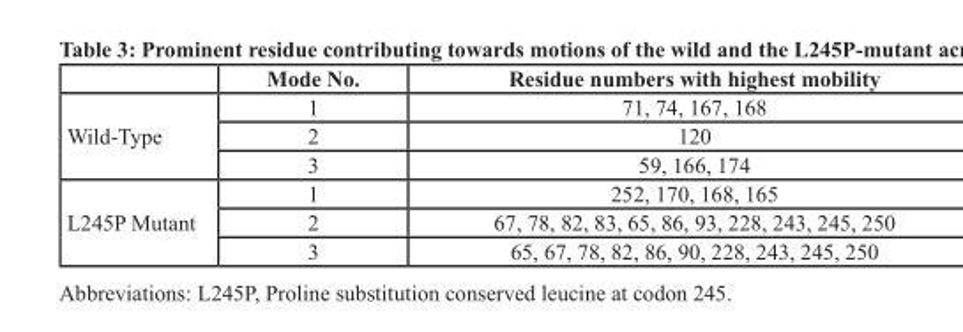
<table><thead><tr><td></td><td>Mode No.</td><td>Residue numbers with highest mobility</td></tr></thead><tbody><tr><td rowspan="3">Wild-Type</td><td>1</td><td>71, 74, 167, 168</td></tr><tr><td>2</td><td>120</td></tr><tr><td>3</td><td>59, 166, 174</td></tr><tr><td rowspan="3">L245P Mutant</td><td>1</td><td>252, 170, 168, 165</td></tr><tr><td>2</td><td>67, 78, 82, 83, 65, 86, 93, 228, 243, 245, 250</td></tr><tr><td>3</td><td>65, 67, 78, 82, 86, 90, 228, 243, 245, 250</td></tr></tbody></table>